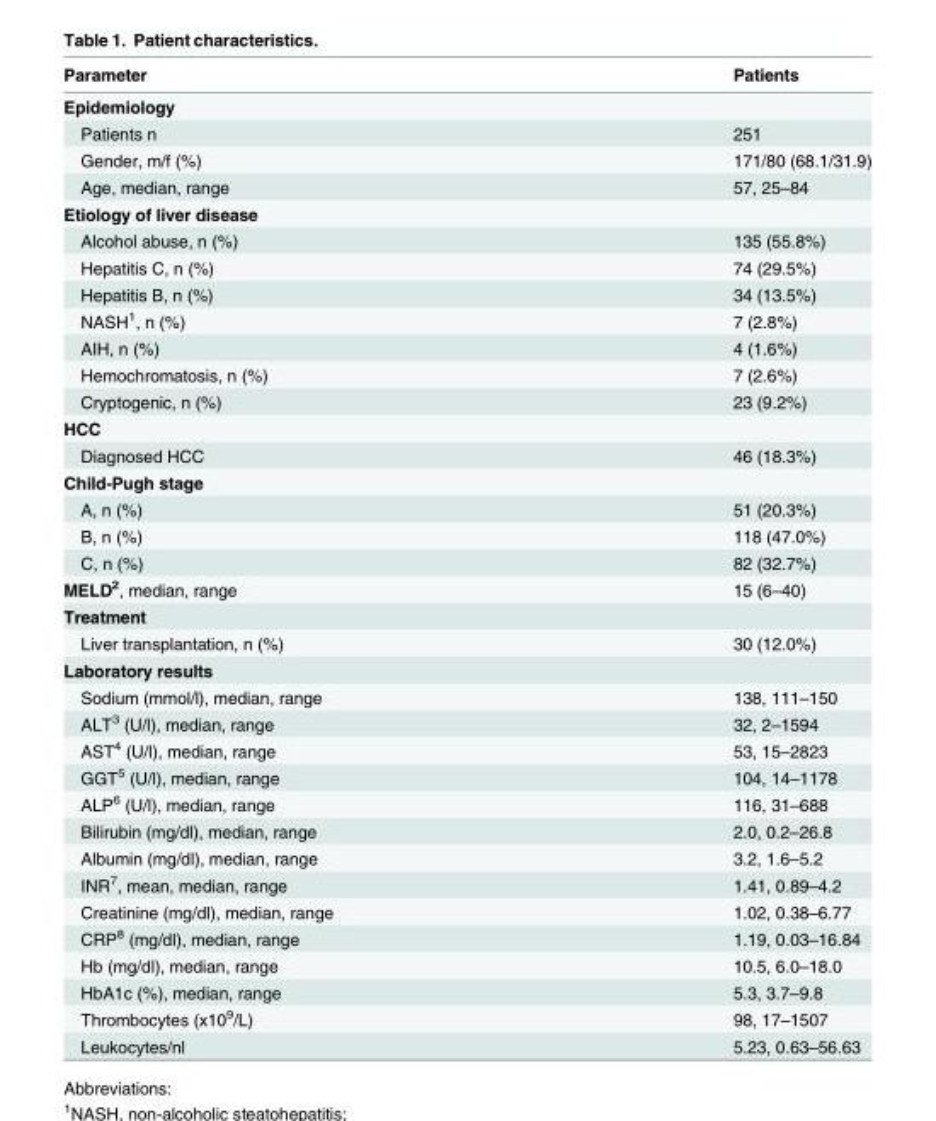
<table><thead><tr><td>Parameter</td><td>Patients</td></tr></thead><tbody><tr><td colspan="2">Epidemiology</td></tr><tr><td>Patients n</td><td>251</td></tr><tr><td>Gender, m/f (%)</td><td>171/80 (68.1/31.9)</td></tr><tr><td>Age, median, range</td><td>57, 25–84</td></tr><tr><td colspan="2">Etiology of liver disease</td></tr><tr><td>Alcohol abuse, n (%)</td><td>135 (55.8%)</td></tr><tr><td>Hepatitis C, n (%)</td><td>74 (29.5%)</td></tr><tr><td>Hepatitis B, n (%)</td><td>34 (13.5%)</td></tr><tr><td>NASH<sup>1</sup>, n (%)</td><td>7 (2.8%)</td></tr><tr><td>AIH, n (%)</td><td>4 (1.6%)</td></tr><tr><td>Hemochromatosis, n (%)</td><td>7 (2.6%)</td></tr><tr><td>Cryptogenic, n (%)</td><td>23 (9.2%)</td></tr><tr><td colspan="2">HCC</td></tr><tr><td>Diagnosed HCC</td><td>46 (18.3%)</td></tr><tr><td colspan="2">Child-Pugh stage</td></tr><tr><td>A, n (%)</td><td>51 (20.3%)</td></tr><tr><td>B, n (%)</td><td>118 (47.0%)</td></tr><tr><td>C, n (%)</td><td>82 (32.7%)</td></tr><tr><td>MELD<sup>2</sup>, median, range</td><td>15 (6–40)</td></tr><tr><td colspan="2">Treatment</td></tr><tr><td>Liver transplantation, n (%)</td><td>30 (12.0%)</td></tr><tr><td colspan="2">Laboratory results</td></tr><tr><td>Sodium (mmol/l), median, range</td><td>138, 111–150</td></tr><tr><td>ALT<sup>3</sup> (U/l), median, range</td><td>32, 2–1594</td></tr><tr><td>AST<sup>4</sup> (U/l), median, range</td><td>53, 15–2823</td></tr><tr><td>GGT<sup>5</sup> (U/l), median, range</td><td>104, 14–1178</td></tr><tr><td>ALP<sup>6</sup> (U/l), median, range</td><td>116, 31–688</td></tr><tr><td>Bilirubin (mg/dl), median, range</td><td>2.0, 0.2–26.8</td></tr><tr><td>Albumin (mg/dl), median, range</td><td>3.2, 1.6–5.2</td></tr><tr><td>INR<sup>7</sup>, mean, median, range</td><td>1.41, 0.89–4.2</td></tr><tr><td>Creatinine (mg/dl), median, range</td><td>1.02, 0.38–6.77</td></tr><tr><td>CRP<sup>8</sup> (mg/dl), median, range</td><td>1.19, 0.03–16.84</td></tr><tr><td>Hb (mg/dl), median, range</td><td>10.5, 6.0–18.0</td></tr><tr><td>HbA1c (%), median, range</td><td>5.3, 3.7–9.8</td></tr><tr><td>Thrombocytes (x10<sup>9</sup>/L)</td><td>98, 17–1507</td></tr><tr><td>Leukocytes/nl</td><td>5.23, 0.63–56.63</td></tr></tbody></table>